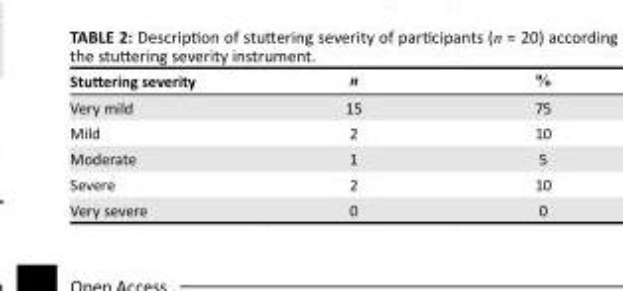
<table><thead><tr><td>Stuttering severity</td><td>n</td><td>%</td></tr></thead><tbody><tr><td>Very mild</td><td>15</td><td>75</td></tr><tr><td>Mild</td><td>2</td><td>10</td></tr><tr><td>Moderate</td><td>1</td><td>5</td></tr><tr><td>Severe</td><td>2</td><td>10</td></tr><tr><td>Very severe</td><td>0</td><td>0</td></tr></tbody></table>